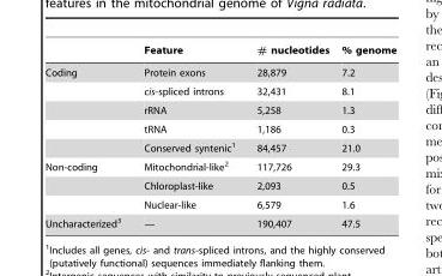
<table><thead><tr><td></td><td>Feature</td><td># nucleotides</td><td>% genome</td></tr></thead><tbody><tr><td rowspan="5">Coding</td><td>Protein exons</td><td>28,879</td><td>7.2</td></tr><tr><td>cis-spliced introns</td><td>32,431</td><td>8.1</td></tr><tr><td>rRNA</td><td>5,258</td><td>1.3</td></tr><tr><td>tRNA</td><td>1,186</td><td>0.3</td></tr><tr><td>Conserved syntenic<sup>1</sup></td><td>84,457</td><td>21.0</td></tr><tr><td rowspan="3">Non-coding</td><td>Mitochondrial-like<sup>2</sup></td><td>117,726</td><td>29.3</td></tr><tr><td>Chloroplast-like</td><td>2,093</td><td>0.5</td></tr><tr><td>Nuclear-like</td><td>6,579</td><td>1.6</td></tr><tr><td>Uncharacterized<sup>3</sup></td><td>—</td><td>190,407</td><td>47.5</td></tr></tbody></table>